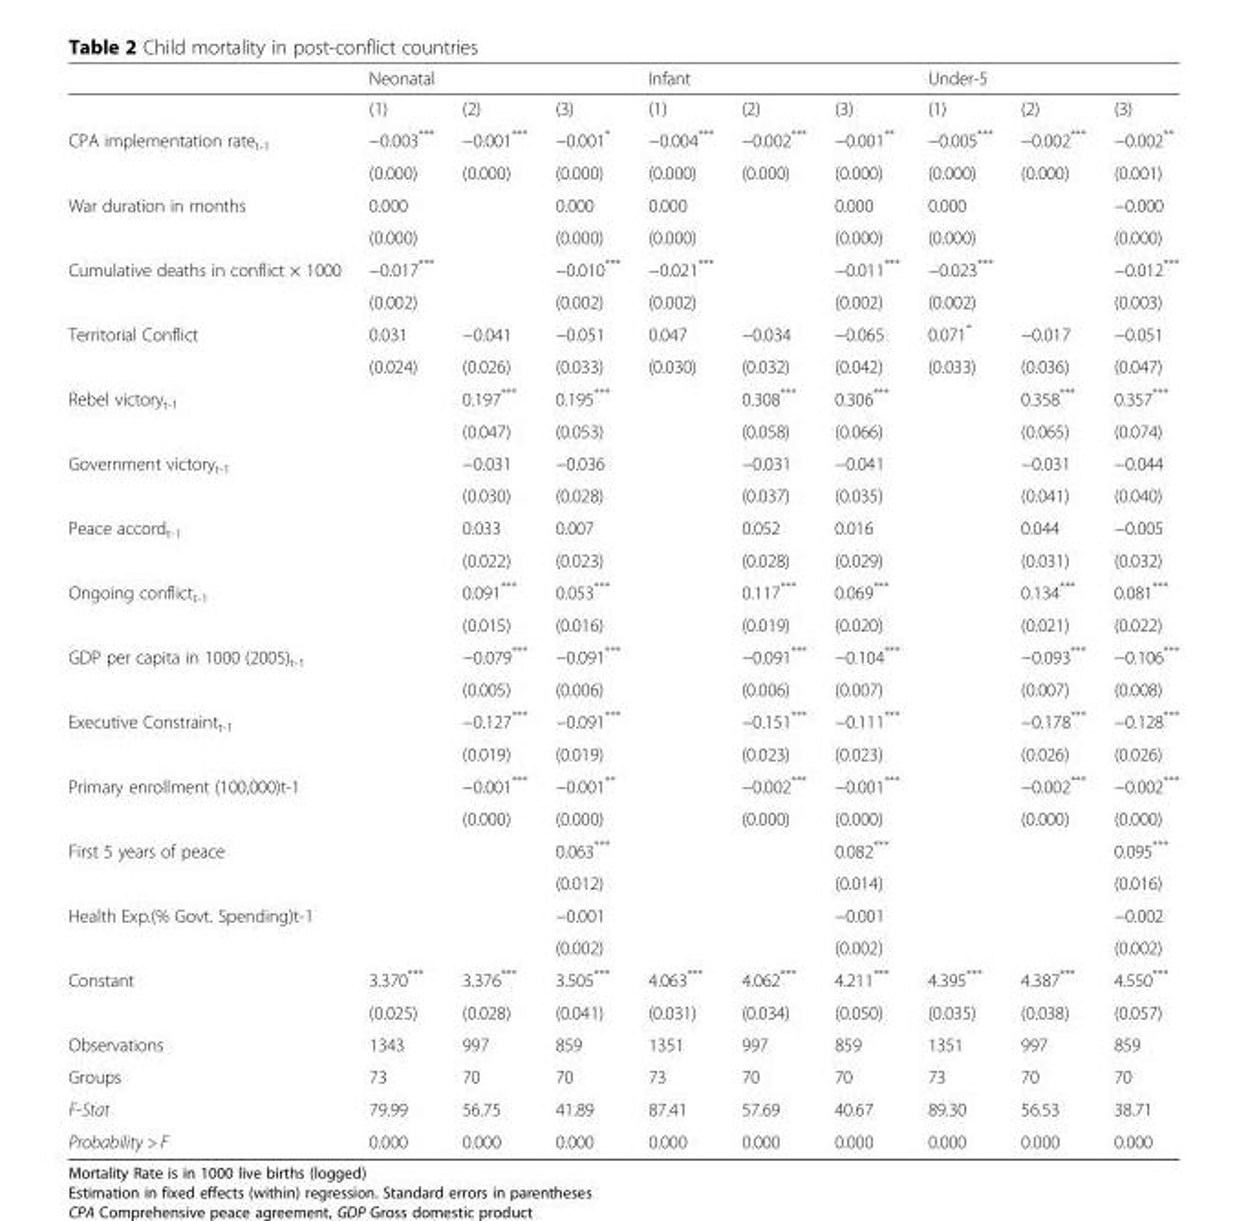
<table><thead><tr><td rowspan="2"></td><td colspan="3">Neonatal</td><td colspan="3">Infant</td><td colspan="3">Under-5</td></tr><tr><td>(1)</td><td>(2)</td><td>(3)</td><td>(1)</td><td>(2)</td><td>(3)</td><td>(1)</td><td>(2)</td><td>(3)</td></tr></thead><tbody><tr><td rowspan="2">CPA implementation rate<sub>t-1</sub></td><td>−0.003***</td><td>−0.001***</td><td>−0.001*</td><td>−0.004***</td><td>−0.002***</td><td>−0.001**</td><td>−0.005***</td><td>−0.002***</td><td>−0.002**</td></tr><tr><td>(0.000)</td><td>(0.000)</td><td>(0.000)</td><td>(0.000)</td><td>(0.000)</td><td>(0.000)</td><td>(0.000)</td><td>(0.000)</td><td>(0.001)</td></tr><tr><td rowspan="2">War duration in months</td><td>0.000</td><td></td><td>0.000</td><td>0.000</td><td></td><td>0.000</td><td>0.000</td><td></td><td>−0.000</td></tr><tr><td>(0.000)</td><td></td><td>(0.000)</td><td>(0.000)</td><td></td><td>(0.000)</td><td>(0.000)</td><td></td><td>(0.000)</td></tr><tr><td rowspan="2">Cumulative deaths in conflict × 1000</td><td>−0.017***</td><td></td><td>−0.010***</td><td>−0.021***</td><td></td><td>−0.011***</td><td>−0.023***</td><td></td><td>−0.012***</td></tr><tr><td>(0.002)</td><td></td><td>(0.002)</td><td>(0.002)</td><td></td><td>(0.002)</td><td>(0.002)</td><td></td><td>(0.003)</td></tr><tr><td rowspan="2">Territorial Conflict</td><td>0.031</td><td>−0.041</td><td>−0.051</td><td>0.047</td><td>−0.034</td><td>−0.065</td><td>0.071*</td><td>−0.017</td><td>−0.051</td></tr><tr><td>(0.024)</td><td>(0.026)</td><td>(0.033)</td><td>(0.030)</td><td>(0.032)</td><td>(0.042)</td><td>(0.033)</td><td>(0.036)</td><td>(0.047)</td></tr><tr><td rowspan="2">Rebel victory<sub>t-1</sub></td><td></td><td>0.197***</td><td>0.195***</td><td></td><td>0.308***</td><td>0.306***</td><td></td><td>0.358***</td><td>0.357***</td></tr><tr><td></td><td>(0.047)</td><td>(0.053)</td><td></td><td>(0.058)</td><td>(0.066)</td><td></td><td>(0.065)</td><td>(0.074)</td></tr><tr><td rowspan="2">Government victory<sub>t-1</sub></td><td></td><td>−0.031</td><td>−0.036</td><td></td><td>−0.031</td><td>−0.041</td><td></td><td>−0.031</td><td>−0.044</td></tr><tr><td></td><td>(0.030)</td><td>(0.028)</td><td></td><td>(0.037)</td><td>(0.035)</td><td></td><td>(0.041)</td><td>(0.040)</td></tr><tr><td rowspan="2">Peace accord<sub>t-1</sub></td><td></td><td>0.033</td><td>0.007</td><td></td><td>0.052</td><td>0.016</td><td></td><td>0.044</td><td>−0.005</td></tr><tr><td></td><td>(0.022)</td><td>(0.023)</td><td></td><td>(0.028)</td><td>(0.029)</td><td></td><td>(0.031)</td><td>(0.032)</td></tr><tr><td rowspan="2">Ongoing conflict<sub>t-1</sub></td><td></td><td>0.091***</td><td>0.053***</td><td></td><td>0.117***</td><td>0.069***</td><td></td><td>0.134***</td><td>0.081***</td></tr><tr><td></td><td>(0.015)</td><td>(0.016)</td><td></td><td>(0.019)</td><td>(0.020)</td><td></td><td>(0.021)</td><td>(0.022)</td></tr><tr><td rowspan="2">GDP per capita in 1000 (2005)<sub>t-1</sub></td><td></td><td>−0.079***</td><td>−0.091***</td><td></td><td>−0.091***</td><td>−0.104***</td><td></td><td>−0.093***</td><td>−0.106***</td></tr><tr><td></td><td>(0.005)</td><td>(0.006)</td><td></td><td>(0.006)</td><td>(0.007)</td><td></td><td>(0.007)</td><td>(0.008)</td></tr><tr><td rowspan="2">Executive Constraint<sub>t-1</sub></td><td></td><td>−0.127***</td><td>−0.091***</td><td></td><td>−0.151***</td><td>−0.111***</td><td></td><td>−0.178***</td><td>−0.128***</td></tr><tr><td></td><td>(0.019)</td><td>(0.019)</td><td></td><td>(0.023)</td><td>(0.023)</td><td></td><td>(0.026)</td><td>(0.026)</td></tr><tr><td rowspan="2">Primary enrollment (100,000)t-1</td><td></td><td>−0.001***</td><td>−0.001**</td><td></td><td>−0.002***</td><td>−0.001***</td><td></td><td>−0.002***</td><td>−0.002***</td></tr><tr><td></td><td>(0.000)</td><td>(0.000)</td><td></td><td>(0.000)</td><td>(0.000)</td><td></td><td>(0.000)</td><td>(0.000)</td></tr><tr><td rowspan="2">First 5 years of peace</td><td></td><td></td><td>0.063***</td><td></td><td></td><td>0.082***</td><td></td><td></td><td>0.095***</td></tr><tr><td></td><td></td><td>(0.012)</td><td></td><td></td><td>(0.014)</td><td></td><td></td><td>(0.016)</td></tr><tr><td rowspan="2">Health Exp.(% Govt. Spending)t-1</td><td></td><td></td><td>−0.001</td><td></td><td></td><td>−0.001</td><td></td><td></td><td>−0.002</td></tr><tr><td></td><td></td><td>(0.002)</td><td></td><td></td><td>(0.002)</td><td></td><td></td><td>(0.002)</td></tr><tr><td rowspan="2">Constant</td><td>3.370***</td><td>3.376***</td><td>3.505***</td><td>4.063***</td><td>4.062***</td><td>4.211***</td><td>4.395***</td><td>4.387***</td><td>4.550***</td></tr><tr><td>(0.025)</td><td>(0.028)</td><td>(0.041)</td><td>(0.031)</td><td>(0.034)</td><td>(0.050)</td><td>(0.035)</td><td>(0.038)</td><td>(0.057)</td></tr><tr><td>Observations</td><td>1343</td><td>997</td><td>859</td><td>1351</td><td>997</td><td>859</td><td>1351</td><td>997</td><td>859</td></tr><tr><td>Groups</td><td>73</td><td>70</td><td>70</td><td>73</td><td>70</td><td>70</td><td>73</td><td>70</td><td>70</td></tr><tr><td>F-Stat</td><td>79.99</td><td>56.75</td><td>41.89</td><td>87.41</td><td>57.69</td><td>40.67</td><td>89.30</td><td>56.53</td><td>38.71</td></tr><tr><td>Probability &gt; F</td><td>0.000</td><td>0.000</td><td>0.000</td><td>0.000</td><td>0.000</td><td>0.000</td><td>0.000</td><td>0.000</td><td>0.000</td></tr></tbody></table>